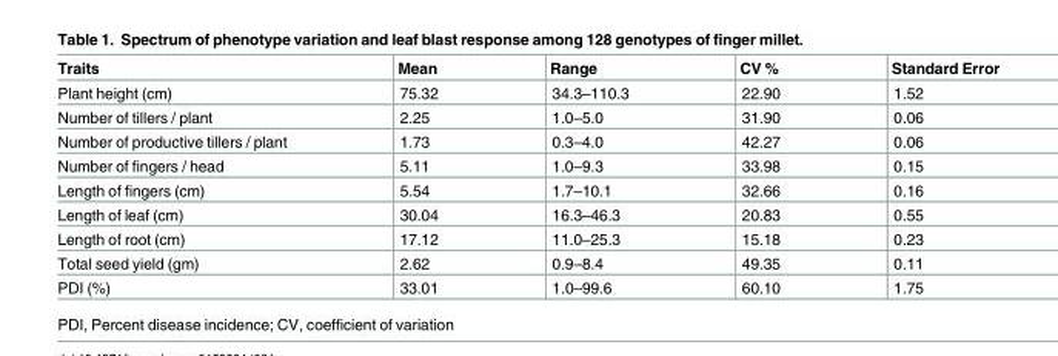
<table><thead><tr><td>Traits</td><td>Mean</td><td>Range</td><td>CV %</td><td>Standard Error</td></tr></thead><tbody><tr><td>Plant height (cm)</td><td>75.32</td><td>34.3–110.3</td><td>22.90</td><td>1.52</td></tr><tr><td>Number of tillers / plant</td><td>2.25</td><td>1.0–5.0</td><td>31.90</td><td>0.06</td></tr><tr><td>Number of productive tillers / plant</td><td>1.73</td><td>0.3–4.0</td><td>42.27</td><td>0.06</td></tr><tr><td>Number of fingers / head</td><td>5.11</td><td>1.0–9.3</td><td>33.98</td><td>0.15</td></tr><tr><td>Length of fingers (cm)</td><td>5.54</td><td>1.7–10.1</td><td>32.66</td><td>0.16</td></tr><tr><td>Length of leaf (cm)</td><td>30.04</td><td>16.3–46.3</td><td>20.83</td><td>0.55</td></tr><tr><td>Length of root (cm)</td><td>17.12</td><td>11.0–25.3</td><td>15.18</td><td>0.23</td></tr><tr><td>Total seed yield (gm)</td><td>2.62</td><td>0.9–8.4</td><td>49.35</td><td>0.11</td></tr><tr><td>PDI (%)</td><td>33.01</td><td>1.0–99.6</td><td>60.10</td><td>1.75</td></tr></tbody></table>